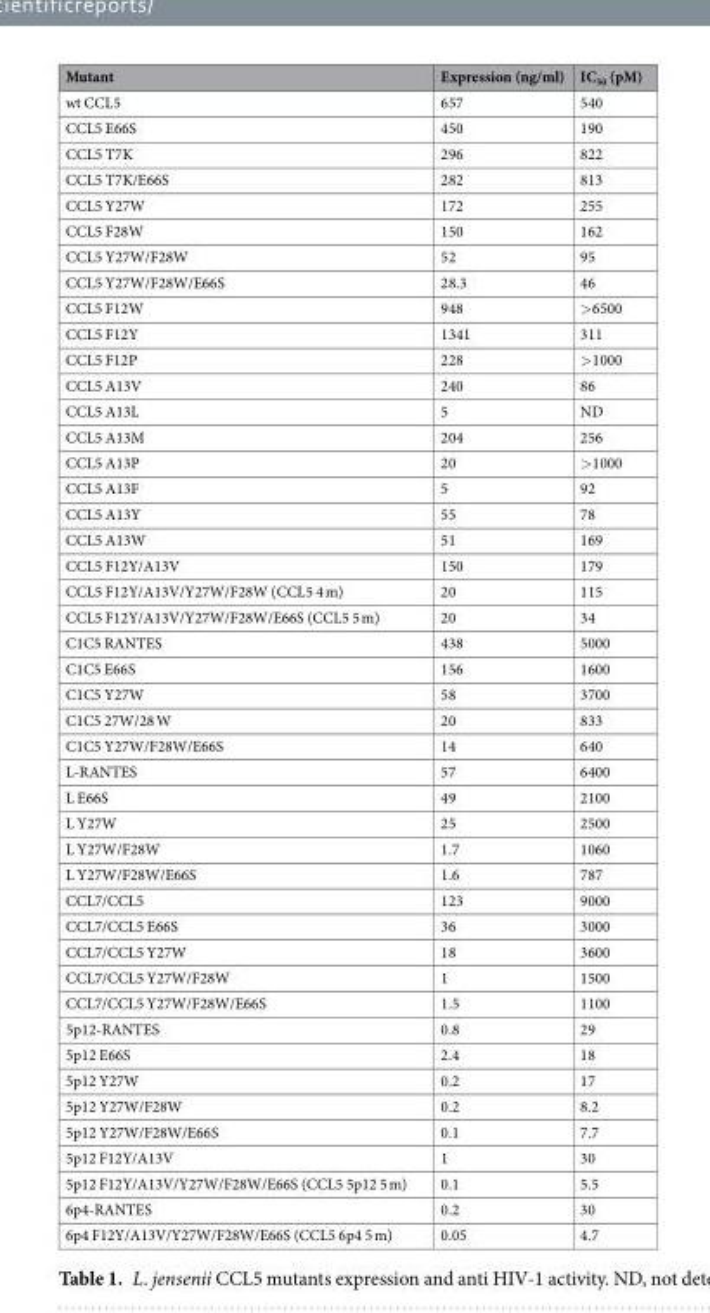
<table><thead><tr><td>Mutant</td><td>Expression (ng/ml)</td><td>IC<sub>50</sub> (pM)</td></tr></thead><tbody><tr><td>wt CCL5</td><td>657</td><td>540</td></tr><tr><td>CCL5 E66S</td><td>450</td><td>190</td></tr><tr><td>CCL5 T7K</td><td>296</td><td>822</td></tr><tr><td>CCL5 T7K/E66S</td><td>282</td><td>813</td></tr><tr><td>CCL5 Y27W</td><td>172</td><td>255</td></tr><tr><td>CCL5 F28W</td><td>150</td><td>162</td></tr><tr><td>CCL5 Y27W/F28W</td><td>52</td><td>95</td></tr><tr><td>CCL5 Y27W/F28W/E66S</td><td>28.3</td><td>46</td></tr><tr><td>CCL5 F12W</td><td>948</td><td>&gt;6500</td></tr><tr><td>CCL5 F12Y</td><td>1341</td><td>311</td></tr><tr><td>CCL5 F12P</td><td>228</td><td>&gt;1000</td></tr><tr><td>CCL5 A13V</td><td>240</td><td>86</td></tr><tr><td>CCL5 A13L</td><td>5</td><td>ND</td></tr><tr><td>CCL5 A13M</td><td>204</td><td>256</td></tr><tr><td>CCL5 A13P</td><td>20</td><td>&gt;1000</td></tr><tr><td>CCL5 A13F</td><td>5</td><td>92</td></tr><tr><td>CCL5 A13Y</td><td>55</td><td>78</td></tr><tr><td>CCL5 A13W</td><td>51</td><td>169</td></tr><tr><td>CCL5 F12Y/A13V</td><td>150</td><td>179</td></tr><tr><td>CCL5 F12Y/A13V/Y27W/F28W (CCL5 4 m)</td><td>20</td><td>115</td></tr><tr><td>CCL5 F12Y/A13V/Y27W/F28W/E66S (CCL5 5 m)</td><td>20</td><td>34</td></tr><tr><td>C1C5 RANTES</td><td>438</td><td>5000</td></tr><tr><td>C1C5 E66S</td><td>156</td><td>1600</td></tr><tr><td>C1C5 Y27W</td><td>58</td><td>3700</td></tr><tr><td>C1C5 27W/28 W</td><td>20</td><td>833</td></tr><tr><td>C1C5 Y27W/F28W/E66S</td><td>14</td><td>640</td></tr><tr><td>L-RANTES</td><td>57</td><td>6400</td></tr><tr><td>L E66S</td><td>49</td><td>2100</td></tr><tr><td>L Y27W</td><td>25</td><td>2500</td></tr><tr><td>L Y27W/F28W</td><td>1.7</td><td>1060</td></tr><tr><td>L Y27W/F28W/E66S</td><td>1.6</td><td>787</td></tr><tr><td>CCL7/CCL5</td><td>123</td><td>9000</td></tr><tr><td>CCL7/CCL5 E66S</td><td>36</td><td>3000</td></tr><tr><td>CCL7/CCL5 Y27W</td><td>18</td><td>3600</td></tr><tr><td>CCL7/CCL5 Y27W/F28W</td><td>1</td><td>1500</td></tr><tr><td>CCL7/CCL5 Y27W/F28W/E66S</td><td>1.5</td><td>1100</td></tr><tr><td>5p12-RANTES</td><td>0.8</td><td>29</td></tr><tr><td>5p12 E66S</td><td>2.4</td><td>18</td></tr><tr><td>5p12 Y27W</td><td>0.2</td><td>17</td></tr><tr><td>5p12 Y27W/F28W</td><td>0.2</td><td>8.2</td></tr><tr><td>5p12 Y27W/F28W/E66S</td><td>0.1</td><td>7.7</td></tr><tr><td>5p12 F12Y/A13V</td><td>1</td><td>30</td></tr><tr><td>5p12 F12Y/A13V/Y27W/F28W/E66S (CCL5 5p12 5 m)</td><td>0.1</td><td>5.5</td></tr><tr><td>6p4-RANTES</td><td>0.2</td><td>30</td></tr><tr><td>6p4 F12Y/A13V/Y27W/F28W/E66S (CCL5 6p4 5 m)</td><td>0.05</td><td>4.7</td></tr></tbody></table>